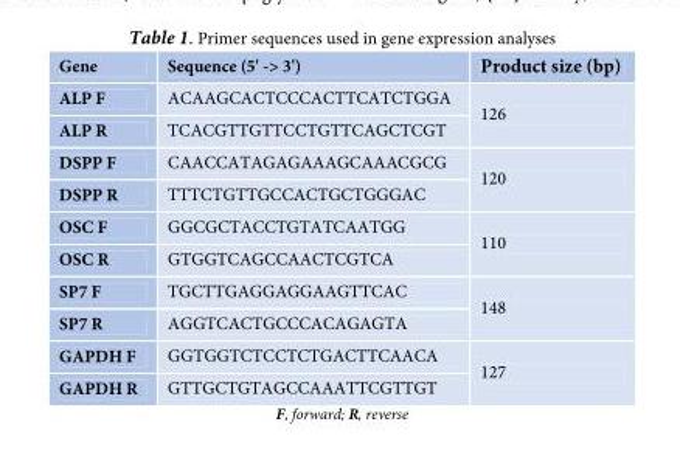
<table><thead><tr><td>Gene</td><td>Sequence (5&#x27; -&gt; 3&#x27;)</td><td>Product size (bp)</td></tr></thead><tbody><tr><td>ALP F</td><td>ACAAGCACTCCCACTTCATCTGGA</td><td rowspan="2">126</td></tr><tr><td>ALP R</td><td>TCACGTTGTTCCTGTTCAGCTCGT</td></tr><tr><td>DSPP F</td><td>CAACCATAGAGAAAGCAAACGCG</td><td rowspan="2">120</td></tr><tr><td>DSPP R</td><td>TTTCTGTTGCCACTGCTGGGAC</td></tr><tr><td>OSC F</td><td>GGCGCTACCTGTATCAATGG</td><td rowspan="2">110</td></tr><tr><td>OSC R</td><td>GTGGTCAGCCAACTCGTCA</td></tr><tr><td>SP7 F</td><td>TGCTTGAGGAGGAAGTTCAC</td><td rowspan="2">148</td></tr><tr><td>SP7 R</td><td>AGGTCACTGCCCACAGAGTA</td></tr><tr><td>GAPDH F</td><td>GGTGGTCTCCTCTGACTTCAACA</td><td rowspan="2">127</td></tr><tr><td>GAPDH R</td><td>GTTGCTGTAGCCAAATTCGTTGT</td></tr></tbody></table>